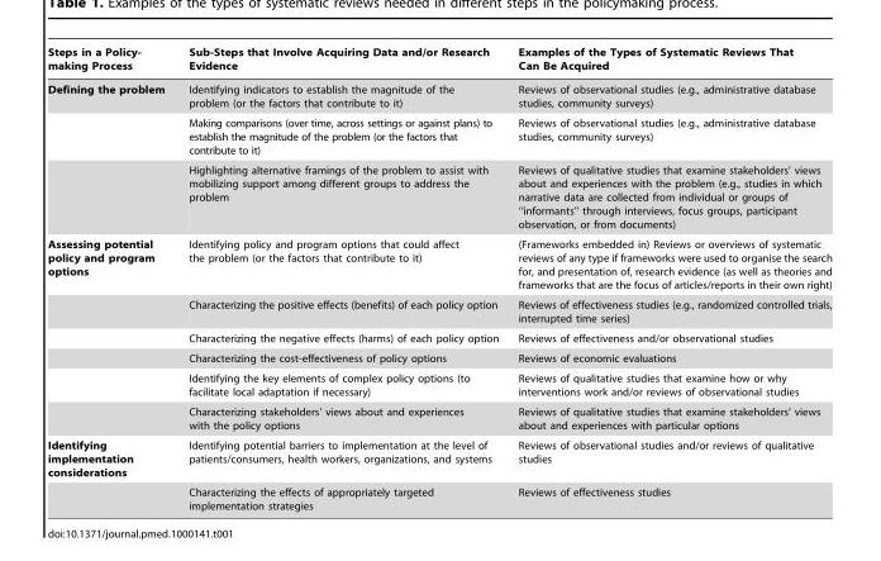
<table><thead><tr><td>Steps in a Policy- making Process</td><td>Sub-Steps that Involve Acquiring Data and/or Research Evidence</td><td>Examples of the Types of Systematic Reviews That Can Be Acquired</td></tr></thead><tbody><tr><td rowspan="3">Defining the problem</td><td>Identifying indicators to establish the magnitude of the problem (or the factors that contribute to it)</td><td>Reviews of observational studies (e.g., administrative database studies, community surveys)</td></tr><tr><td>Making comparisons (over time, across settings or against plans) to establish the magnitude of the problem (or the factors that contribute to it)</td><td>Reviews of observational studies (e.g., administrative database studies, community surveys)</td></tr><tr><td>Highlighting alternative framings of the problem to assist with mobilizing support among different groups to address the problem</td><td>Reviews of qualitative studies that examine stakeholders’ views about and experiences with the problem (e.g., studies in which narrative data are collected from individual or groups of ‘‘informants’’ through interviews, focus groups, participant observation, or from documents)</td></tr><tr><td rowspan="6">Assessing potential policy and program options</td><td>Identifying policy and program options that could affect the problem (or the factors that contribute to it)</td><td>(Frameworks embedded in) Reviews or overviews of systematic reviews of any type if frameworks were used to organise the search for, and presentation of, research evidence (as well as theories and frameworks that are the focus of articles/reports in their own right)</td></tr><tr><td>Characterizing the positive effects (benefits) of each policy option</td><td>Reviews of effectiveness studies (e.g., randomized controlled trials, interrupted time series)</td></tr><tr><td>Characterizing the negative effects (harms) of each policy option</td><td>Reviews of effectiveness and/or observational studies</td></tr><tr><td>Characterizing the cost-effectiveness of policy options</td><td>Reviews of economic evaluations</td></tr><tr><td>Identifying the key elements of complex policy options (to facilitate local adaptation if necessary)</td><td>Reviews of qualitative studies that examine how or why interventions work and/or reviews of observational studies</td></tr><tr><td>Characterizing stakeholders’ views about and experiences with the policy options</td><td>Reviews of qualitative studies that examine stakeholders’ views about and experiences with particular options</td></tr><tr><td rowspan="2">Identifying implementation considerations</td><td>Identifying potential barriers to implementation at the level of patients/consumers, health workers, organizations, and systems</td><td>Reviews of observational studies and/or reviews of qualitative studies</td></tr><tr><td>Characterizing the effects of appropriately targeted implementation strategies</td><td>Reviews of effectiveness studies</td></tr></tbody></table>